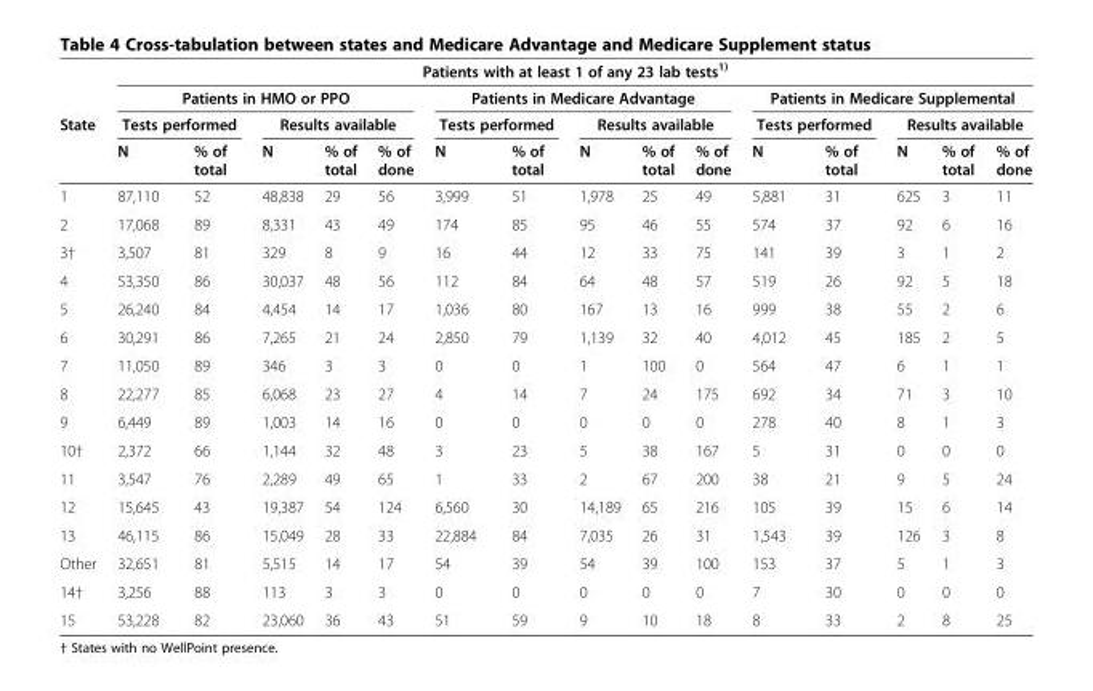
<table><thead><tr><td rowspan="4">State</td><td colspan="15">Patients with at least 1 of any 23 lab tests<sup>1)</sup></td></tr><tr><td colspan="5">Patients in HMO or PPO</td><td colspan="5">Patients in Medicare Advantage</td><td colspan="5">Patients in Medicare Supplemental</td></tr><tr><td colspan="2">Tests performed</td><td colspan="3">Results available</td><td colspan="2">Tests performed</td><td colspan="3">Results available</td><td colspan="2">Tests performed</td><td colspan="3">Results available</td></tr><tr><td>N</td><td>% of total</td><td>N</td><td>% of total</td><td>% of done</td><td>N</td><td>% of total</td><td>N</td><td>% of total</td><td>% of done</td><td>N</td><td>% of total</td><td>N</td><td>% of total</td><td>% of done</td></tr></thead><tbody><tr><td>1</td><td>87,110</td><td>52</td><td>48,838</td><td>29</td><td>56</td><td>3,999</td><td>51</td><td>1,978</td><td>25</td><td>49</td><td>5,881</td><td>31</td><td>625</td><td>3</td><td>11</td></tr><tr><td>2</td><td>17,068</td><td>89</td><td>8,331</td><td>43</td><td>49</td><td>174</td><td>85</td><td>95</td><td>46</td><td>55</td><td>574</td><td>37</td><td>92</td><td>6</td><td>16</td></tr><tr><td>3†</td><td>3,507</td><td>81</td><td>329</td><td>8</td><td>9</td><td>16</td><td>44</td><td>12</td><td>33</td><td>75</td><td>141</td><td>39</td><td>3</td><td>1</td><td>2</td></tr><tr><td>4</td><td>53,350</td><td>86</td><td>30,037</td><td>48</td><td>56</td><td>112</td><td>84</td><td>64</td><td>48</td><td>57</td><td>519</td><td>26</td><td>92</td><td>5</td><td>18</td></tr><tr><td>5</td><td>26,240</td><td>84</td><td>4,454</td><td>14</td><td>17</td><td>1,036</td><td>80</td><td>167</td><td>13</td><td>16</td><td>999</td><td>38</td><td>55</td><td>2</td><td>6</td></tr><tr><td>6</td><td>30,291</td><td>86</td><td>7,265</td><td>21</td><td>24</td><td>2,850</td><td>79</td><td>1,139</td><td>32</td><td>40</td><td>4,012</td><td>45</td><td>185</td><td>2</td><td>5</td></tr><tr><td>7</td><td>11,050</td><td>89</td><td>346</td><td>3</td><td>3</td><td>0</td><td>0</td><td>1</td><td>100</td><td>0</td><td>564</td><td>47</td><td>6</td><td>1</td><td>1</td></tr><tr><td>8</td><td>22,277</td><td>85</td><td>6,068</td><td>23</td><td>27</td><td>4</td><td>14</td><td>7</td><td>24</td><td>175</td><td>692</td><td>34</td><td>71</td><td>3</td><td>10</td></tr><tr><td>9</td><td>6,449</td><td>89</td><td>1,003</td><td>14</td><td>16</td><td>0</td><td>0</td><td>0</td><td>0</td><td>0</td><td>278</td><td>40</td><td>8</td><td>1</td><td>3</td></tr><tr><td>10†</td><td>2,372</td><td>66</td><td>1,144</td><td>32</td><td>48</td><td>3</td><td>23</td><td>5</td><td>38</td><td>167</td><td>5</td><td>31</td><td>0</td><td>0</td><td>0</td></tr><tr><td>11</td><td>3,547</td><td>76</td><td>2,289</td><td>49</td><td>65</td><td>1</td><td>33</td><td>2</td><td>67</td><td>200</td><td>38</td><td>21</td><td>9</td><td>5</td><td>24</td></tr><tr><td>12</td><td>15,645</td><td>43</td><td>19,387</td><td>54</td><td>124</td><td>6,560</td><td>30</td><td>14,189</td><td>65</td><td>216</td><td>105</td><td>39</td><td>15</td><td>6</td><td>14</td></tr><tr><td>13</td><td>46,115</td><td>86</td><td>15,049</td><td>28</td><td>33</td><td>22,884</td><td>84</td><td>7,035</td><td>26</td><td>31</td><td>1,543</td><td>39</td><td>126</td><td>3</td><td>8</td></tr><tr><td>Other</td><td>32,651</td><td>81</td><td>5,515</td><td>14</td><td>17</td><td>54</td><td>39</td><td>54</td><td>39</td><td>100</td><td>153</td><td>37</td><td>5</td><td>1</td><td>3</td></tr><tr><td>14†</td><td>3,256</td><td>88</td><td>113</td><td>3</td><td>3</td><td>0</td><td>0</td><td>0</td><td>0</td><td>0</td><td>7</td><td>30</td><td>0</td><td>0</td><td>0</td></tr><tr><td>15</td><td>53,228</td><td>82</td><td>23,060</td><td>36</td><td>43</td><td>51</td><td>59</td><td>9</td><td>10</td><td>18</td><td>8</td><td>33</td><td>2</td><td>8</td><td>25</td></tr></tbody></table>